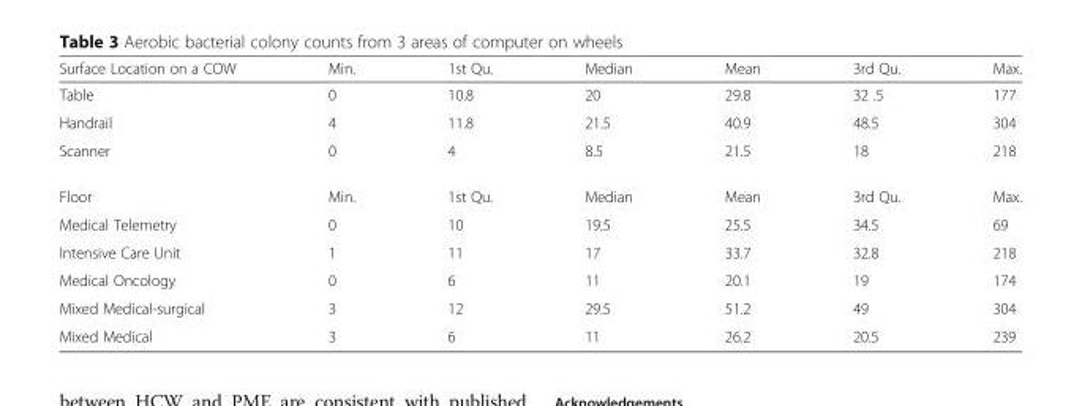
<table><thead><tr><td>Surface Location on a COW</td><td>Min.</td><td>1st Qu.</td><td>Median</td><td>Mean</td><td>3rd Qu.</td><td>Max.</td></tr></thead><tbody><tr><td>Table</td><td>0</td><td>10.8</td><td>20</td><td>29.8</td><td>32 .5</td><td>177</td></tr><tr><td>Handrail</td><td>4</td><td>11.8</td><td>21.5</td><td>40.9</td><td>48.5</td><td>304</td></tr><tr><td>Scanner</td><td>0</td><td>4</td><td>8.5</td><td>21.5</td><td>18</td><td>218</td></tr><tr><td>Floor</td><td>Min.</td><td>1st Qu.</td><td>Median</td><td>Mean</td><td>3rd Qu.</td><td>Max.</td></tr><tr><td>Medical Telemetry</td><td>0</td><td>10</td><td>19.5</td><td>25.5</td><td>34.5</td><td>69</td></tr><tr><td>Intensive Care Unit</td><td>1</td><td>11</td><td>17</td><td>33.7</td><td>32.8</td><td>218</td></tr><tr><td>Medical Oncology</td><td>0</td><td>6</td><td>11</td><td>20.1</td><td>19</td><td>174</td></tr><tr><td>Mixed Medical-surgical</td><td>3</td><td>12</td><td>29.5</td><td>51.2</td><td>49</td><td>304</td></tr><tr><td>Mixed Medical</td><td>3</td><td>6</td><td>11</td><td>26.2</td><td>20.5</td><td>239</td></tr></tbody></table>